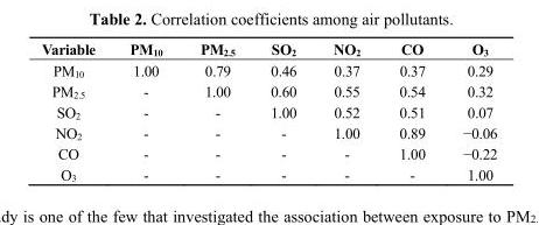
<table><thead><tr><td>Variable</td><td>PM<sub>10</sub></td><td>PM<sub>2.5</sub></td><td>SO<sub>2</sub></td><td>NO<sub>2</sub></td><td>CO</td><td>O<sub>3</sub></td></tr></thead><tbody><tr><td>PM<sub>10</sub></td><td>1.00</td><td>0.79</td><td>0.46</td><td>0.37</td><td>0.37</td><td>0.29</td></tr><tr><td>PM<sub>2.5</sub></td><td>-</td><td>1.00</td><td>0.60</td><td>0.55</td><td>0.54</td><td>0.32</td></tr><tr><td>SO<sub>2</sub></td><td>-</td><td>-</td><td>1.00</td><td>0.52</td><td>0.51</td><td>0.07</td></tr><tr><td>NO<sub>2</sub></td><td>-</td><td>-</td><td>-</td><td>1.00</td><td>0.89</td><td>−0.06</td></tr><tr><td>CO</td><td>-</td><td>-</td><td>-</td><td>-</td><td>1.00</td><td>−0.22</td></tr><tr><td>O<sub>3</sub></td><td>-</td><td>-</td><td>-</td><td>-</td><td>-</td><td>1.00</td></tr></tbody></table>